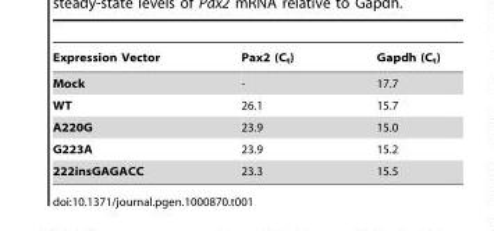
<table><thead><tr><td>Expression Vector</td><td>Pax2 (C<sub>t</sub>)</td><td>Gapdh (C<sub>t</sub>)</td></tr></thead><tbody><tr><td>Mock</td><td>-</td><td>17.7</td></tr><tr><td>WT</td><td>26.1</td><td>15.7</td></tr><tr><td>A220G</td><td>23.9</td><td>15.0</td></tr><tr><td>G223A</td><td>23.9</td><td>15.2</td></tr><tr><td>222insGAGACC</td><td>23.3</td><td>15.5</td></tr></tbody></table>